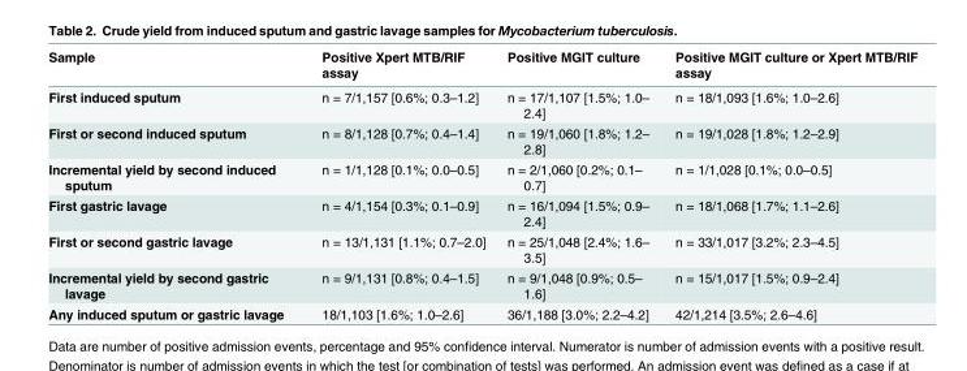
<table><thead><tr><td>Sample</td><td>Positive Xpert MTB/RIF assay</td><td>Positive MGIT culture</td><td>Positive MGIT culture or Xpert MTB/RIF assay</td></tr></thead><tbody><tr><td>First induced sputum</td><td>n = 7/1,157 [0.6%; 0.3–1.2]</td><td>n = 17/1,107 [1.5%; 1.0– 2.4]</td><td>n = 18/1,093 [1.6%; 1.0–2.6]</td></tr><tr><td>First or second induced sputum</td><td>n = 8/1,128 [0.7%; 0.4–1.4]</td><td>n = 19/1,060 [1.8%; 1.2– 2.8]</td><td>n = 19/1,028 [1.8%; 1.2–2.9]</td></tr><tr><td>Incremental yield by second induced sputum</td><td>n = 1/1,128 [0.1%; 0.0–0.5]</td><td>n = 2/1,060 [0.2%; 0.1– 0.7]</td><td>n = 1/1,028 [0.1%; 0.0–0.5]</td></tr><tr><td>First gastric lavage</td><td>n = 4/1,154 [0.3%; 0.1–0.9]</td><td>n = 16/1,094 [1.5%; 0.9– 2.4]</td><td>n = 18/1,068 [1.7%; 1.1–2.6]</td></tr><tr><td>First or second gastric lavage</td><td>n = 13/1,131 [1.1%; 0.7–2.0]</td><td>n = 25/1,048 [2.4%; 1.6– 3.5]</td><td>n = 33/1,017 [3.2%; 2.3–4.5]</td></tr><tr><td>Incremental yield by second gastric lavage</td><td>n = 9/1,131 [0.8%; 0.4–1.5]</td><td>n = 9/1,048 [0.9%; 0.5– 1.6]</td><td>n = 15/1,017 [1.5%; 0.9–2.4]</td></tr><tr><td>Any induced sputum or gastric lavage</td><td>18/1,103 [1.6%; 1.0–2.6]</td><td>36/1,188 [3.0%; 2.2–4.2]</td><td>42/1,214 [3.5%; 2.6–4.6]</td></tr></tbody></table>